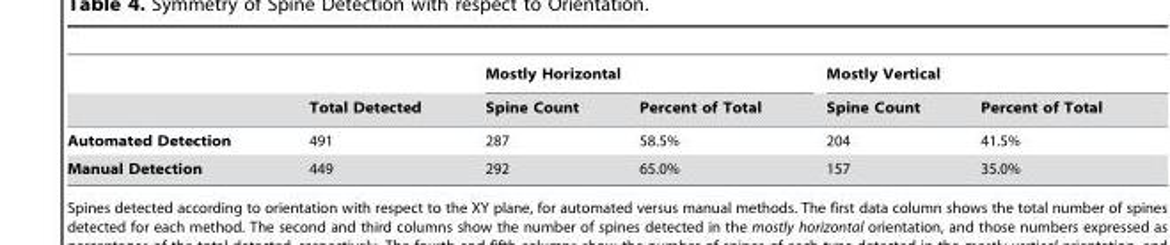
<table><thead><tr><td rowspan="2"></td><td rowspan="2">Total Detected</td><td colspan="2">Mostly Horizontal</td><td colspan="2">Mostly Vertical</td></tr><tr><td>Spine Count</td><td>Percent of Total</td><td>Spine Count</td><td>Percent of Total</td></tr></thead><tbody><tr><td>Automated Detection</td><td>491</td><td>287</td><td>58.5%</td><td>204</td><td>41.5%</td></tr><tr><td>Manual Detection</td><td>449</td><td>292</td><td>65.0%</td><td>157</td><td>35.0%</td></tr></tbody></table>